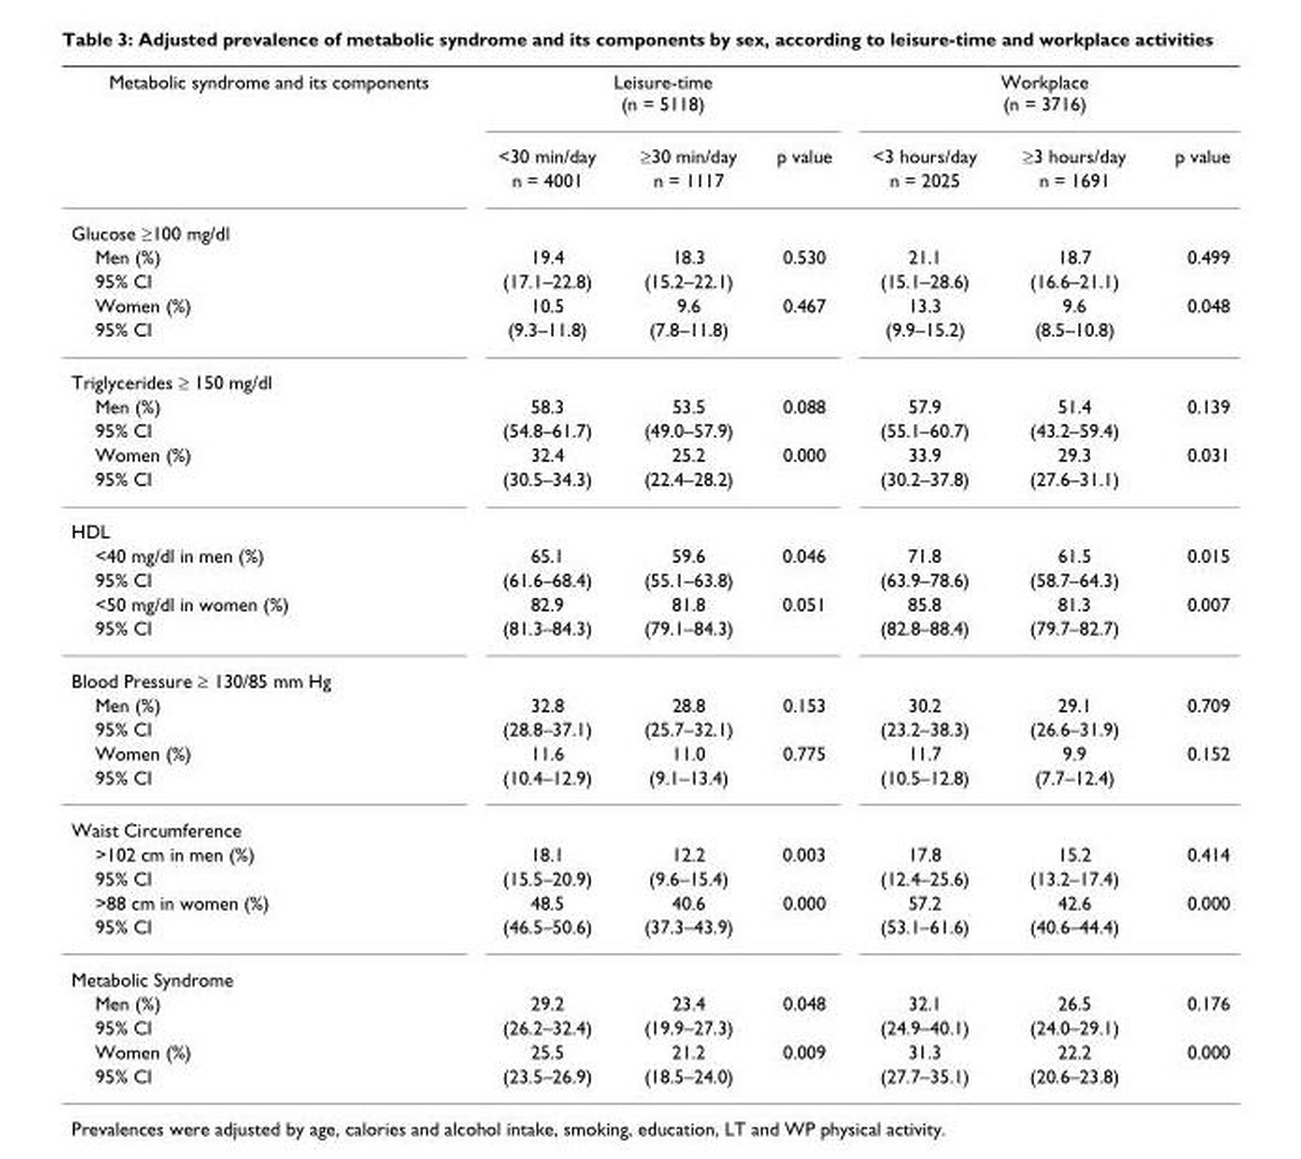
<table><tbody><tr><td rowspan="3">Metabolic syndrome and its components</td><td colspan="3">Leisure-time (n = 5118)</td><td colspan="3">Workplace (n = 3716)</td></tr><tr><td>&lt;30 min/day</td><td>≥30 min/day</td><td>p value</td><td>&lt;3 hours/day</td><td>≥3 hours/day</td><td>p value</td></tr><tr><td>n = 4001</td><td>n = 1117</td><td></td><td>n = 2025</td><td>n = 1691</td><td></td></tr><tr><td colspan="7">Glucose ≥100 mg/dl</td></tr><tr><td>Men (%)</td><td>19.4</td><td>18.3</td><td>0.530</td><td>21.1</td><td>18.7</td><td>0.499</td></tr><tr><td>95% CI</td><td>(17.1–22.8)</td><td>(15.2–22.1)</td><td></td><td>(15.1–28.6)</td><td>(16.6–21.1)</td><td></td></tr><tr><td>Women (%)</td><td>10.5</td><td>9.6</td><td>0.467</td><td>13.3</td><td>9.6</td><td>0.048</td></tr><tr><td>95% CI</td><td>(9.3–11.8)</td><td>(7.8–11.8)</td><td></td><td>(9.9–15.2)</td><td>(8.5–10.8)</td><td></td></tr><tr><td colspan="7">Triglycerides ≥ 150 mg/dl</td></tr><tr><td>Men (%)</td><td>58.3</td><td>53.5</td><td>0.088</td><td>57.9</td><td>51.4</td><td>0.139</td></tr><tr><td>95% CI</td><td>(54.8–61.7)</td><td>(49.0–57.9)</td><td></td><td>(55.1–60.7)</td><td>(43.2–59.4)</td><td></td></tr><tr><td>Women (%)</td><td>32.4</td><td>25.2</td><td>0.000</td><td>33.9</td><td>29.3</td><td>0.031</td></tr><tr><td>95% CI</td><td>(30.5–34.3)</td><td>(22.4–28.2)</td><td></td><td>(30.2–37.8)</td><td>(27.6–31.1)</td><td></td></tr><tr><td colspan="7">HDL</td></tr><tr><td>&lt;40 mg/dl in men (%)</td><td>65.1</td><td>59.6</td><td>0.046</td><td>71.8</td><td>61.5</td><td>0.015</td></tr><tr><td>95% CI</td><td>(61.6–68.4)</td><td>(55.1–63.8)</td><td></td><td>(63.9–78.6)</td><td>(58.7–64.3)</td><td></td></tr><tr><td>&lt;50 mg/dl in women (%)</td><td>82.9</td><td>81.8</td><td>0.051</td><td>85.8</td><td>81.3</td><td>0.007</td></tr><tr><td>95% CI</td><td>(81.3–84.3)</td><td>(79.1–84.3)</td><td></td><td>(82.8–88.4)</td><td>(79.7–82.7)</td><td></td></tr><tr><td colspan="7">Blood Pressure ≥ 130/85 mm Hg</td></tr><tr><td>Men (%)</td><td>32.8</td><td>28.8</td><td>0.153</td><td>30.2</td><td>29.1</td><td>0.709</td></tr><tr><td>95% CI</td><td>(28.8–37.1)</td><td>(25.7–32.1)</td><td></td><td>(23.2–38.3)</td><td>(26.6–31.9)</td><td></td></tr><tr><td>Women (%)</td><td>11.6</td><td>11.0</td><td>0.775</td><td>11.7</td><td>9.9</td><td>0.152</td></tr><tr><td>95% CI</td><td>(10.4–12.9)</td><td>(9.1–13.4)</td><td></td><td>(10.5–12.8)</td><td>(7.7–12.4)</td><td></td></tr><tr><td colspan="7">Waist Circumference</td></tr><tr><td>&gt;102 cm in men (%)</td><td>18.1</td><td>12.2</td><td>0.003</td><td>17.8</td><td>15.2</td><td>0.414</td></tr><tr><td>95% CI</td><td>(15.5–20.9)</td><td>(9.6–15.4)</td><td></td><td>(12.4–25.6)</td><td>(13.2–17.4)</td><td></td></tr><tr><td>&gt;88 cm in women (%)</td><td>48.5</td><td>40.6</td><td>0.000</td><td>57.2</td><td>42.6</td><td>0.000</td></tr><tr><td>95% CI</td><td>(46.5–50.6)</td><td>(37.3–43.9)</td><td></td><td>(53.1–61.6)</td><td>(40.6–44.4)</td><td></td></tr><tr><td colspan="7">Metabolic Syndrome</td></tr><tr><td>Men (%)</td><td>29.2</td><td>23.4</td><td>0.048</td><td>32.1</td><td>26.5</td><td>0.176</td></tr><tr><td>95% CI</td><td>(26.2–32.4)</td><td>(19.9–27.3)</td><td></td><td>(24.9–40.1)</td><td>(24.0–29.1)</td><td></td></tr><tr><td>Women (%)</td><td>25.5</td><td>21.2</td><td>0.009</td><td>31.3</td><td>22.2</td><td>0.000</td></tr><tr><td>95% CI</td><td>(23.5–26.9)</td><td>(18.5–24.0)</td><td></td><td>(27.7–35.1)</td><td>(20.6–23.8)</td><td></td></tr></tbody></table>